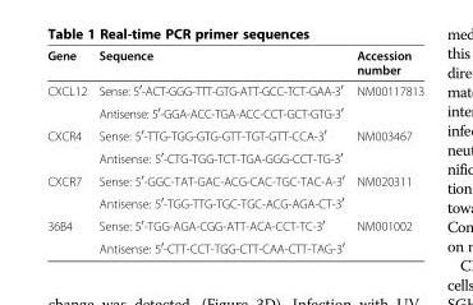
<table><thead><tr><td>Gene</td><td>Sequence</td><td>Accession number</td></tr></thead><tbody><tr><td rowspan="2">CXCL12</td><td>Sense: 5<sup>′</sup>-ACT-GGG-TTT-GTG-ATT-GCC-TCT-GAA-3<sup>′</sup></td><td rowspan="2">NM00117813</td></tr><tr><td>Antisense: 5<sup>′</sup>-GGA-ACC-TGA-ACC-CCT-GCT-GTG-3<sup>′</sup></td></tr><tr><td rowspan="2">CXCR4</td><td>Sense: 5<sup>′</sup>-TTG-TGG-GTG-GTT-TGT-GTT-CCA-3<sup>′</sup></td><td rowspan="2">NM003467</td></tr><tr><td>Antisense: 5<sup>′</sup>-CTG-TGG-TCT-TGA-GGG-CCT-TG-3<sup>′</sup></td></tr><tr><td rowspan="2">CXCR7</td><td>Sense: 5<sup>′</sup>-GGC-TAT-GAC-ACG-CAC-TGC-TAC-A-3<sup>′</sup></td><td rowspan="2">NM020311</td></tr><tr><td>Antisense: 5<sup>′</sup>-TGG-TTG-TGC-TGC-ACG-AGA-CT-3<sup>′</sup></td></tr><tr><td rowspan="2">36B4</td><td>Sense: 5<sup>′</sup>-TGG-AGA-CGG-ATT-ACA-CCT-TC-3<sup>′</sup></td><td>NM001002</td></tr><tr><td>Antisense: 5<sup>′</sup>-CTT-CCT-TGG-CTT-CAA-CTT-TAG-3<sup>′</sup></td><td></td></tr></tbody></table>